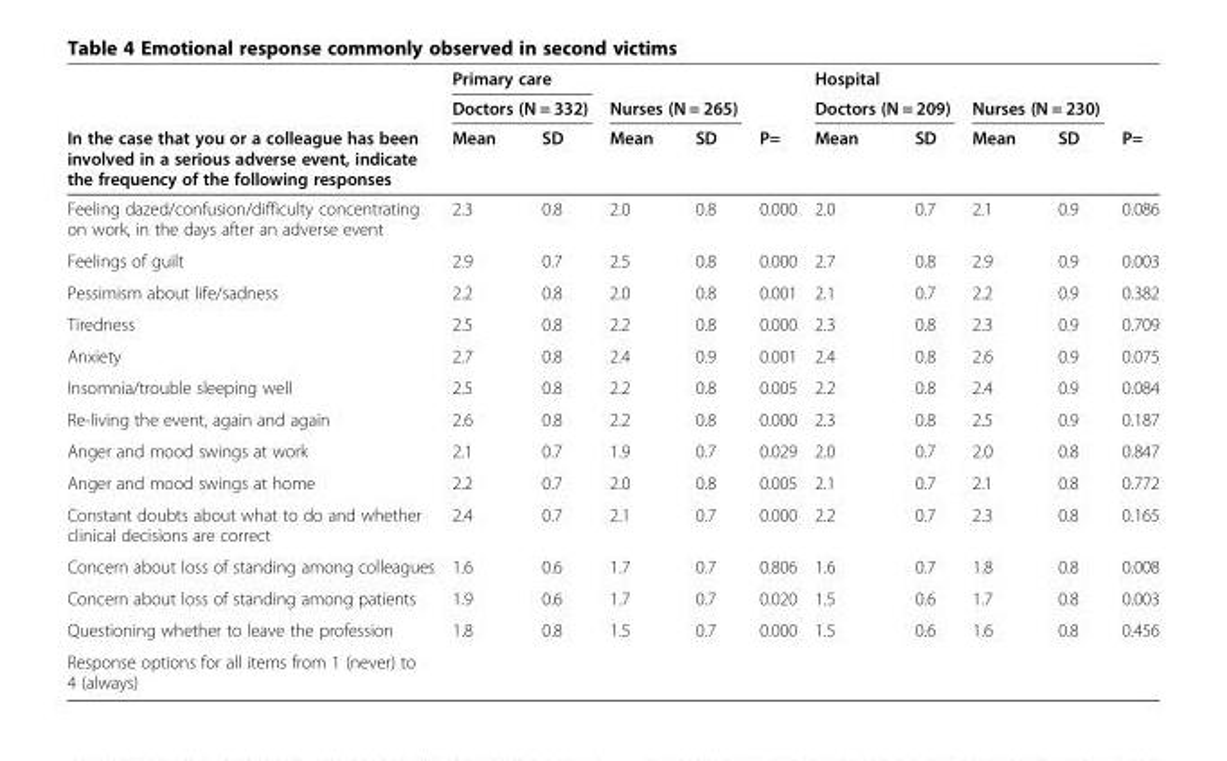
<table><thead><tr><td rowspan="3">In the case that you or a colleague has been involved in a serious adverse event, indicate the frequency of the following responses</td><td rowspan="2" colspan="2">Primary care Doctors (N = 332)</td><td></td><td></td><td rowspan="3">P=</td><td>Hospital</td><td></td><td></td><td></td><td rowspan="3">P=</td></tr><tr><td colspan="2">Nurses (N = 265)</td><td colspan="2">Doctors (N = 209)</td><td colspan="2">Nurses (N = 230)</td></tr><tr><td>Mean</td><td>SD</td><td>Mean</td><td>SD</td><td>Mean</td><td>SD</td><td>Mean</td><td>SD</td></tr></thead><tbody><tr><td>Feeling dazed/confusion/difficulty concentrating on work, in the days after an adverse event</td><td>2.3</td><td>0.8</td><td>2.0</td><td>0.8</td><td>0.000</td><td>2.0</td><td>0.7</td><td>2.1</td><td>0.9</td><td>0.086</td></tr><tr><td>Feelings of guilt</td><td>2.9</td><td>0.7</td><td>2.5</td><td>0.8</td><td>0.000</td><td>2.7</td><td>0.8</td><td>2.9</td><td>0.9</td><td>0.003</td></tr><tr><td>Pessimism about life/sadness</td><td>2.2</td><td>0.8</td><td>2.0</td><td>0.8</td><td>0.001</td><td>2.1</td><td>0.7</td><td>2.2</td><td>0.9</td><td>0.382</td></tr><tr><td>Tiredness</td><td>2.5</td><td>0.8</td><td>2.2</td><td>0.8</td><td>0.000</td><td>2.3</td><td>0.8</td><td>2.3</td><td>0.9</td><td>0.709</td></tr><tr><td>Anxiety</td><td>2.7</td><td>0.8</td><td>2.4</td><td>0.9</td><td>0.001</td><td>2.4</td><td>0.8</td><td>2.6</td><td>0.9</td><td>0.075</td></tr><tr><td>Insomnia/trouble sleeping well</td><td>2.5</td><td>0.8</td><td>2.2</td><td>0.8</td><td>0.005</td><td>2.2</td><td>0.8</td><td>2.4</td><td>0.9</td><td>0.084</td></tr><tr><td>Re-living the event, again and again</td><td>2.6</td><td>0.8</td><td>2.2</td><td>0.8</td><td>0.000</td><td>2.3</td><td>0.8</td><td>2.5</td><td>0.9</td><td>0.187</td></tr><tr><td>Anger and mood swings at work</td><td>2.1</td><td>0.7</td><td>1.9</td><td>0.7</td><td>0.029</td><td>2.0</td><td>0.7</td><td>2.0</td><td>0.8</td><td>0.847</td></tr><tr><td>Anger and mood swings at home</td><td>2.2</td><td>0.7</td><td>2.0</td><td>0.8</td><td>0.005</td><td>2.1</td><td>0.7</td><td>2.1</td><td>0.8</td><td>0.772</td></tr><tr><td>Constant doubts about what to do and whether clinical decisions are correct</td><td>2.4</td><td>0.7</td><td>2.1</td><td>0.7</td><td>0.000</td><td>2.2</td><td>0.7</td><td>2.3</td><td>0.8</td><td>0.165</td></tr><tr><td>Concern about loss of standing among colleagues</td><td>1.6</td><td>0.6</td><td>1.7</td><td>0.7</td><td>0.806</td><td>1.6</td><td>0.7</td><td>1.8</td><td>0.8</td><td>0.008</td></tr><tr><td>Concern about loss of standing among patients</td><td>1.9</td><td>0.6</td><td>1.7</td><td>0.7</td><td>0.020</td><td>1.5</td><td>0.6</td><td>1.7</td><td>0.8</td><td>0.003</td></tr><tr><td>Questioning whether to leave the profession</td><td>1.8</td><td>0.8</td><td>1.5</td><td>0.7</td><td>0.000</td><td>1.5</td><td>0.6</td><td>1.6</td><td>0.8</td><td>0.456</td></tr><tr><td>Response options for all items from 1 (never) to 4 (always)</td><td></td><td></td><td></td><td></td><td></td><td></td><td></td><td></td><td></td><td></td></tr></tbody></table>